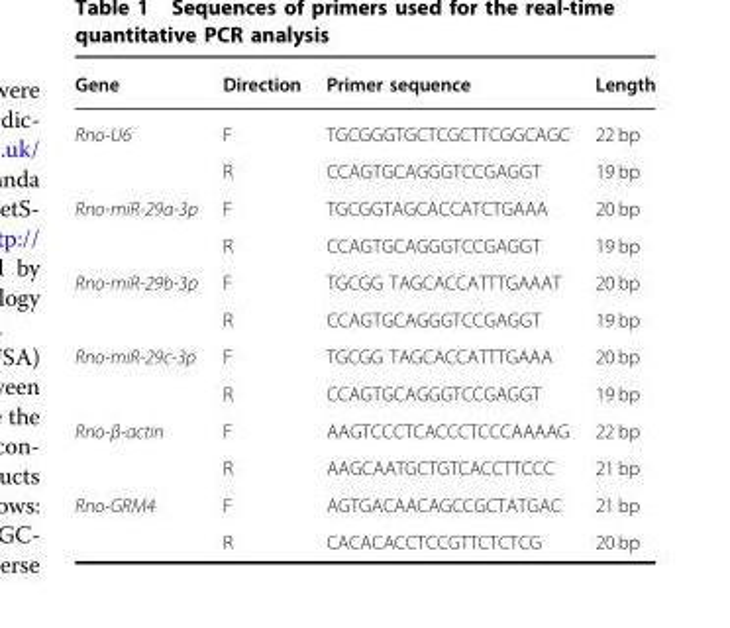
<table><thead><tr><td>Gene</td><td>Direction</td><td>Primer sequence</td><td>Length</td></tr></thead><tbody><tr><td rowspan="2">Rno-U6</td><td>F</td><td>TGCGGGTGCTCGCTTCGGCAGC</td><td>22 bp</td></tr><tr><td>R</td><td>CCAGTGCAGGGTCCGAGGT</td><td>19 bp</td></tr><tr><td rowspan="2">Rno-miR-29a-3p</td><td>F</td><td>TGCGGTAGCACCATCTGAAA</td><td>20 bp</td></tr><tr><td>R</td><td>CCAGTGCAGGGTCCGAGGT</td><td>19 bp</td></tr><tr><td rowspan="2">Rno-miR-29b-3p</td><td>F</td><td>TGCGG TAGCACCATTTGAAAT</td><td>20 bp</td></tr><tr><td>R</td><td>CCAGTGCAGGGTCCGAGGT</td><td>19 bp</td></tr><tr><td rowspan="2">Rno-miR-29c-3p</td><td>F</td><td>TGCGG TAGCACCATTTGAAA</td><td>20 bp</td></tr><tr><td>R</td><td>CCAGTGCAGGGTCCGAGGT</td><td>19 bp</td></tr><tr><td rowspan="2">Rno-β-actin</td><td>F</td><td>AAGTCCCTCACCCTCCCAAAAG</td><td>22 bp</td></tr><tr><td>R</td><td>AAGCAATGCTGTCACCTTCCC</td><td>21 bp</td></tr><tr><td rowspan="2">Rno-GRM4</td><td>F</td><td>AGTGACAACAGCCGCTATGAC</td><td>21 bp</td></tr><tr><td>R</td><td>CACACACCTCCGTTCTCTCG</td><td>20 bp</td></tr></tbody></table>